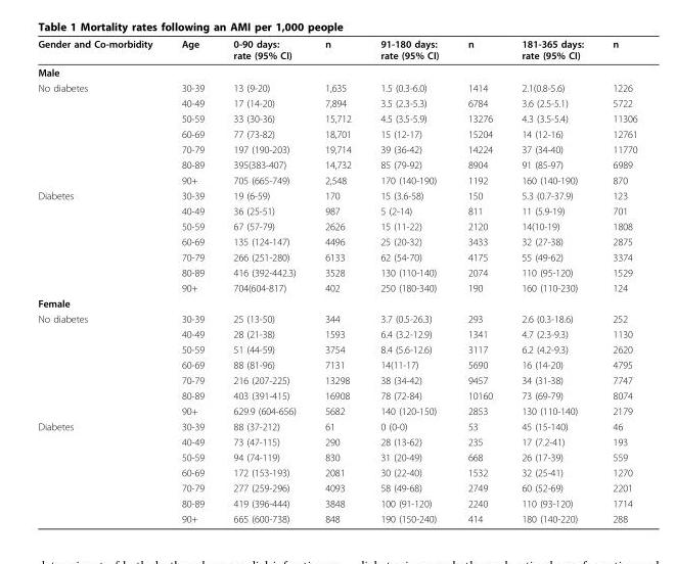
<table><thead><tr><td>Gender and Co-morbidity</td><td>Age</td><td>0-90 days: rate (95% CI)</td><td>n</td><td>91-180 days: rate (95% CI)</td><td>n</td><td>181-365 days: rate (95% CI)</td><td>n</td></tr></thead><tbody><tr><td colspan="8">Male</td></tr><tr><td rowspan="7">No diabetes</td><td>30-39</td><td>13 (9-20)</td><td>1,635</td><td>1.5 (0.3-6.0)</td><td>1414</td><td>2.1(0.8-5.6)</td><td>1226</td></tr><tr><td>40-49</td><td>17 (14-20)</td><td>7,894</td><td>3.5 (2.3-5.3)</td><td>6784</td><td>3.6 (2.5-5.1)</td><td>5722</td></tr><tr><td>50-59</td><td>33 (30-36)</td><td>15,712</td><td>4.5 (3.5-5.9)</td><td>13276</td><td>4.3 (3.5-5.4)</td><td>11306</td></tr><tr><td>60-69</td><td>77 (73-82)</td><td>18,701</td><td>15 (12-17)</td><td>15204</td><td>14 (12-16)</td><td>12761</td></tr><tr><td>70-79</td><td>197 (190-203)</td><td>19,714</td><td>39 (36-42)</td><td>14224</td><td>37 (34-40)</td><td>11770</td></tr><tr><td>80-89</td><td>395(383-407)</td><td>14,732</td><td>85 (79-92)</td><td>8904</td><td>91 (85-97)</td><td>6989</td></tr><tr><td>90+</td><td>705 (665-749)</td><td>2,548</td><td>170 (140-190)</td><td>1192</td><td>160 (140-190)</td><td>870</td></tr><tr><td rowspan="7">Diabetes</td><td>30-39</td><td>19 (6-59)</td><td>170</td><td>15 (3.6-58)</td><td>150</td><td>5.3 (0.7-37.9)</td><td>123</td></tr><tr><td>40-49</td><td>36 (25-51)</td><td>987</td><td>5 (2-14)</td><td>811</td><td>11 (5.9-19)</td><td>701</td></tr><tr><td>50-59</td><td>67 (57-79)</td><td>2626</td><td>15 (11-22)</td><td>2120</td><td>14(10-19)</td><td>1808</td></tr><tr><td>60-69</td><td>135 (124-147)</td><td>4496</td><td>25 (20-32)</td><td>3433</td><td>32 (27-38)</td><td>2875</td></tr><tr><td>70-79</td><td>266 (251-280)</td><td>6133</td><td>62 (54-70)</td><td>4175</td><td>55 (49-62)</td><td>3374</td></tr><tr><td>80-89</td><td>416 (392-442.3)</td><td>3528</td><td>130 (110-140)</td><td>2074</td><td>110 (95-120)</td><td>1529</td></tr><tr><td>90+</td><td>704(604-817)</td><td>402</td><td>250 (180-340)</td><td>190</td><td>160 (110-230)</td><td>124</td></tr><tr><td colspan="8">Female</td></tr><tr><td rowspan="7">No diabetes</td><td>30-39</td><td>25 (13-50)</td><td>344</td><td>3.7 (0.5-26.3)</td><td>293</td><td>2.6 (0.3-18.6)</td><td>252</td></tr><tr><td>40-49</td><td>28 (21-38)</td><td>1593</td><td>6.4 (3.2-12.9)</td><td>1341</td><td>4.7 (2.3-9.3)</td><td>1130</td></tr><tr><td>50-59</td><td>51 (44-59)</td><td>3754</td><td>8.4 (5.6-12.6)</td><td>3117</td><td>6.2 (4.2-9.3)</td><td>2620</td></tr><tr><td>60-69</td><td>88 (81-96)</td><td>7131</td><td>14(11-17)</td><td>5690</td><td>16 (14-20)</td><td>4795</td></tr><tr><td>70-79</td><td>216 (207-225)</td><td>13298</td><td>38 (34-42)</td><td>9457</td><td>34 (31-38)</td><td>7747</td></tr><tr><td>80-89</td><td>403 (391-415)</td><td>16908</td><td>78 (72-84)</td><td>10160</td><td>73 (69-79)</td><td>8074</td></tr><tr><td>90+</td><td>629.9 (604-656)</td><td>5682</td><td>140 (120-150)</td><td>2853</td><td>130 (110-140)</td><td>2179</td></tr><tr><td rowspan="7">Diabetes</td><td>30-39</td><td>88 (37-212)</td><td>61</td><td>0 (0-0)</td><td>53</td><td>45 (15-140)</td><td>46</td></tr><tr><td>40-49</td><td>73 (47-115)</td><td>290</td><td>28 (13-62)</td><td>235</td><td>17 (7.2-41)</td><td>193</td></tr><tr><td>50-59</td><td>94 (74-119)</td><td>830</td><td>31 (20-49)</td><td>668</td><td>26 (17-39)</td><td>559</td></tr><tr><td>60-69</td><td>172 (153-193)</td><td>2081</td><td>30 (22-40)</td><td>1532</td><td>32 (25-41)</td><td>1270</td></tr><tr><td>70-79</td><td>277 (259-296)</td><td>4093</td><td>58 (49-68)</td><td>2749</td><td>60 (52-69)</td><td>2201</td></tr><tr><td>80-89</td><td>419 (396-444)</td><td>3848</td><td>100 (91-120)</td><td>2240</td><td>110 (93-120)</td><td>1714</td></tr><tr><td>90+</td><td>665 (600-738)</td><td>848</td><td>190 (150-240)</td><td>414</td><td>180 (140-220)</td><td>288</td></tr></tbody></table>